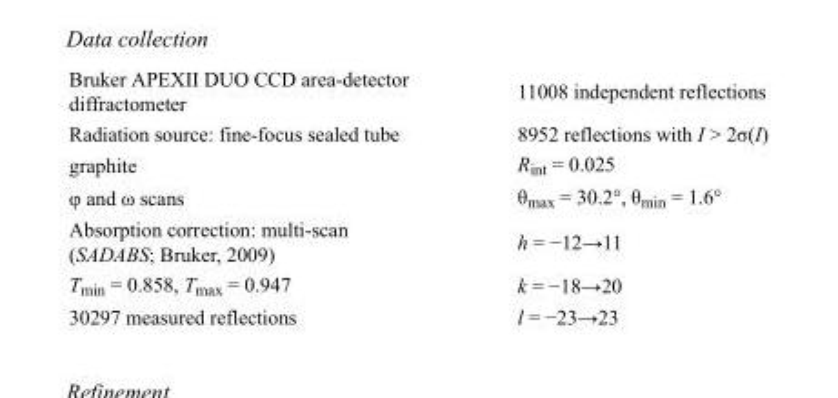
<table><tbody><tr><td>Bruker APEXII DUO CCD area-detector diffractometer</td><td>11008 independent reflections</td></tr><tr><td>Radiation source: fine-focus sealed tube</td><td>8952 reflections with I &gt; 2σ(I)</td></tr><tr><td>graphite</td><td>R<sub>int</sub> = 0.025</td></tr><tr><td>φ and ω scans</td><td>θ<sub>max</sub> = 30.2°, θ<sub>min</sub> = 1.6°</td></tr><tr><td>Absorption correction: multi-scan (SADABS; Bruker, 2009)</td><td>h = −12→11</td></tr><tr><td>T<sub>min</sub> = 0.858, T<sub>max</sub> = 0.947</td><td>k = −18→20</td></tr><tr><td>30297 measured reflections</td><td>l = −23→23</td></tr></tbody></table>